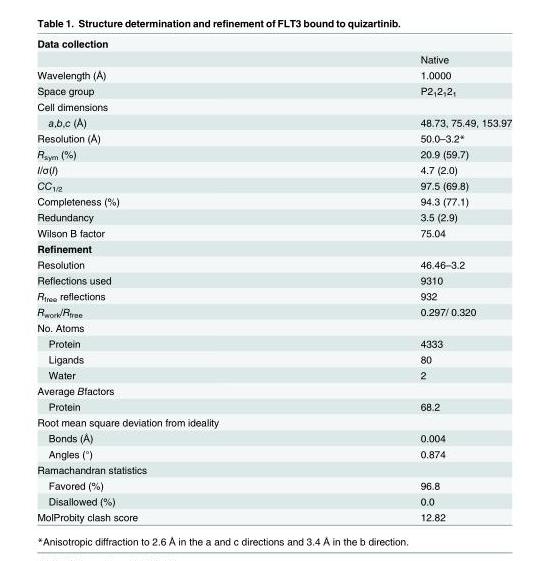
<table><tbody><tr><td colspan="2">Data collection</td></tr><tr><td></td><td>Native</td></tr><tr><td>Wavelength (Å)</td><td>1.0000</td></tr><tr><td>Space group</td><td>P2<sub>1</sub>2<sub>1</sub>2<sub>1</sub></td></tr><tr><td colspan="2">Cell dimensions</td></tr><tr><td>a,b,c (Å)</td><td>48.73, 75.49, 153.97</td></tr><tr><td>Resolution (Å)</td><td>50.0–3.2*</td></tr><tr><td>R<sub>sym</sub> (%)</td><td>20.9 (59.7)</td></tr><tr><td>I/σ(I)</td><td>4.7 (2.0)</td></tr><tr><td>CC<sub>1/2</sub></td><td>97.5 (69.8)</td></tr><tr><td>Completeness (%)</td><td>94.3 (77.1)</td></tr><tr><td>Redundancy</td><td>3.5 (2.9)</td></tr><tr><td>Wilson B factor</td><td>75.04</td></tr><tr><td colspan="2">Refinement</td></tr><tr><td>Resolution</td><td>46.46–3.2</td></tr><tr><td>Reflections used</td><td>9310</td></tr><tr><td>R<sub>free</sub> reflections</td><td>932</td></tr><tr><td>R<sub>work</sub>/R<sub>free</sub></td><td>0.297/ 0.320</td></tr><tr><td colspan="2">No. Atoms</td></tr><tr><td>Protein</td><td>4333</td></tr><tr><td>Ligands</td><td>80</td></tr><tr><td>Water</td><td>2</td></tr><tr><td colspan="2">Average Bfactors</td></tr><tr><td>Protein</td><td>68.2</td></tr><tr><td colspan="2">Root mean square deviation from ideality</td></tr><tr><td>Bonds (Å)</td><td>0.004</td></tr><tr><td>Angles (°)</td><td>0.874</td></tr><tr><td colspan="2">Ramachandran statistics</td></tr><tr><td>Favored (%)</td><td>96.8</td></tr><tr><td>Disallowed (%)</td><td>0.0</td></tr><tr><td>MolProbity clash score</td><td>12.82</td></tr></tbody></table>